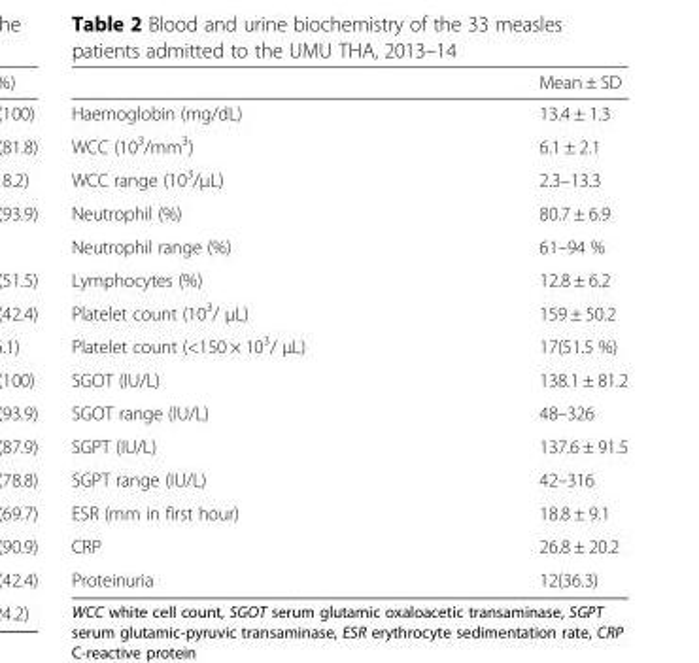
<table><thead><tr><td></td><td>Mean ± SD</td></tr></thead><tbody><tr><td>Haemoglobin (mg/dL)</td><td>13.4 ± 1.3</td></tr><tr><td>WCC (10<sup>3</sup>/mm<sup>3</sup>)</td><td>6.1 ± 2.1</td></tr><tr><td>WCC range (10<sup>3</sup>/μL)</td><td>2.3–13.3</td></tr><tr><td>Neutrophil (%)</td><td>80.7 ± 6.9</td></tr><tr><td>Neutrophil range (%)</td><td>61–94 %</td></tr><tr><td>Lymphocytes (%)</td><td>12.8 ± 6.2</td></tr><tr><td>Platelet count (10<sup>3</sup>/ μL)</td><td>159 ± 50.2</td></tr><tr><td>Platelet count (&lt;150 × 10<sup>3</sup>/ μL)</td><td>17(51.5 %)</td></tr><tr><td>SGOT (IU/L)</td><td>138.1 ± 81.2</td></tr><tr><td>SGOT range (IU/L)</td><td>48–326</td></tr><tr><td>SGPT (IU/L)</td><td>137.6 ± 91.5</td></tr><tr><td>SGPT range (IU/L)</td><td>42–316</td></tr><tr><td>ESR (mm in first hour)</td><td>18.8 ± 9.1</td></tr><tr><td>CRP</td><td>26.8 ± 20.2</td></tr><tr><td>Proteinuria</td><td>12(36.3)</td></tr></tbody></table>